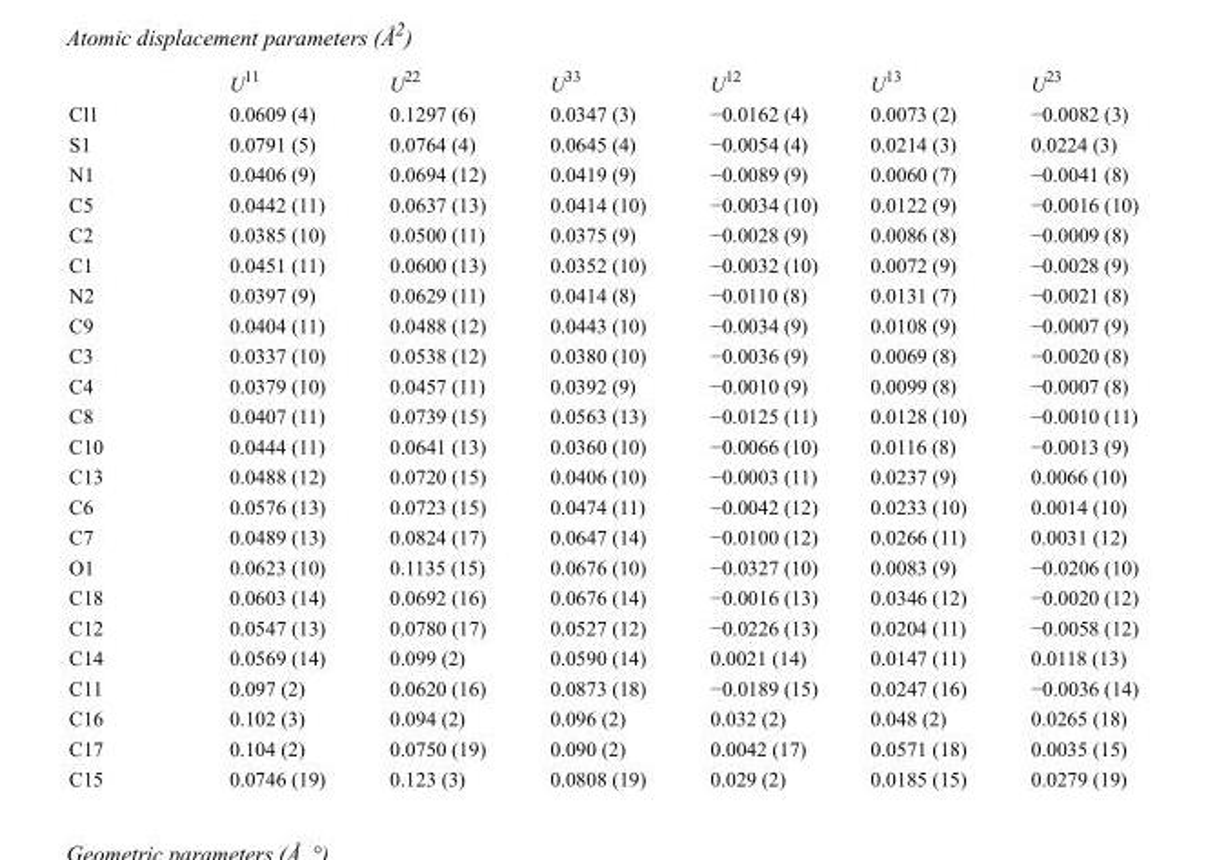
<table><thead><tr><td></td><td>U<sup>11</sup></td><td>U<sup>22</sup></td><td>U<sup>33</sup></td><td>U<sup>12</sup></td><td>U<sup>13</sup></td><td>U<sup>23</sup></td></tr></thead><tbody><tr><td>Cl1</td><td>0.0609 (4)</td><td>0.1297 (6)</td><td>0.0347 (3)</td><td>−0.0162 (4)</td><td>0.0073 (2)</td><td>−0.0082 (3)</td></tr><tr><td>S1</td><td>0.0791 (5)</td><td>0.0764 (4)</td><td>0.0645 (4)</td><td>−0.0054 (4)</td><td>0.0214 (3)</td><td>0.0224 (3)</td></tr><tr><td>N1</td><td>0.0406 (9)</td><td>0.0694 (12)</td><td>0.0419 (9)</td><td>−0.0089 (9)</td><td>0.0060 (7)</td><td>−0.0041 (8)</td></tr><tr><td>C5</td><td>0.0442 (11)</td><td>0.0637 (13)</td><td>0.0414 (10)</td><td>−0.0034 (10)</td><td>0.0122 (9)</td><td>−0.0016 (10)</td></tr><tr><td>C2</td><td>0.0385 (10)</td><td>0.0500 (11)</td><td>0.0375 (9)</td><td>−0.0028 (9)</td><td>0.0086 (8)</td><td>−0.0009 (8)</td></tr><tr><td>C1</td><td>0.0451 (11)</td><td>0.0600 (13)</td><td>0.0352 (10)</td><td>−0.0032 (10)</td><td>0.0072 (9)</td><td>−0.0028 (9)</td></tr><tr><td>N2</td><td>0.0397 (9)</td><td>0.0629 (11)</td><td>0.0414 (8)</td><td>−0.0110 (8)</td><td>0.0131 (7)</td><td>−0.0021 (8)</td></tr><tr><td>C9</td><td>0.0404 (11)</td><td>0.0488 (12)</td><td>0.0443 (10)</td><td>−0.0034 (9)</td><td>0.0108 (9)</td><td>−0.0007 (9)</td></tr><tr><td>C3</td><td>0.0337 (10)</td><td>0.0538 (12)</td><td>0.0380 (10)</td><td>−0.0036 (9)</td><td>0.0069 (8)</td><td>−0.0020 (8)</td></tr><tr><td>C4</td><td>0.0379 (10)</td><td>0.0457 (11)</td><td>0.0392 (9)</td><td>−0.0010 (9)</td><td>0.0099 (8)</td><td>−0.0007 (8)</td></tr><tr><td>C8</td><td>0.0407 (11)</td><td>0.0739 (15)</td><td>0.0563 (13)</td><td>−0.0125 (11)</td><td>0.0128 (10)</td><td>−0.0010 (11)</td></tr><tr><td>C10</td><td>0.0444 (11)</td><td>0.0641 (13)</td><td>0.0360 (10)</td><td>−0.0066 (10)</td><td>0.0116 (8)</td><td>−0.0013 (9)</td></tr><tr><td>C13</td><td>0.0488 (12)</td><td>0.0720 (15)</td><td>0.0406 (10)</td><td>−0.0003 (11)</td><td>0.0237 (9)</td><td>0.0066 (10)</td></tr><tr><td>C6</td><td>0.0576 (13)</td><td>0.0723 (15)</td><td>0.0474 (11)</td><td>−0.0042 (12)</td><td>0.0233 (10)</td><td>0.0014 (10)</td></tr><tr><td>C7</td><td>0.0489 (13)</td><td>0.0824 (17)</td><td>0.0647 (14)</td><td>−0.0100 (12)</td><td>0.0266 (11)</td><td>0.0031 (12)</td></tr><tr><td>O1</td><td>0.0623 (10)</td><td>0.1135 (15)</td><td>0.0676 (10)</td><td>−0.0327 (10)</td><td>0.0083 (9)</td><td>−0.0206 (10)</td></tr><tr><td>C18</td><td>0.0603 (14)</td><td>0.0692 (16)</td><td>0.0676 (14)</td><td>−0.0016 (13)</td><td>0.0346 (12)</td><td>−0.0020 (12)</td></tr><tr><td>C12</td><td>0.0547 (13)</td><td>0.0780 (17)</td><td>0.0527 (12)</td><td>−0.0226 (13)</td><td>0.0204 (11)</td><td>−0.0058 (12)</td></tr><tr><td>C14</td><td>0.0569 (14)</td><td>0.099 (2)</td><td>0.0590 (14)</td><td>0.0021 (14)</td><td>0.0147 (11)</td><td>0.0118 (13)</td></tr><tr><td>C11</td><td>0.097 (2)</td><td>0.0620 (16)</td><td>0.0873 (18)</td><td>−0.0189 (15)</td><td>0.0247 (16)</td><td>−0.0036 (14)</td></tr><tr><td>C16</td><td>0.102 (3)</td><td>0.094 (2)</td><td>0.096 (2)</td><td>0.032 (2)</td><td>0.048 (2)</td><td>0.0265 (18)</td></tr><tr><td>C17</td><td>0.104 (2)</td><td>0.0750 (19)</td><td>0.090 (2)</td><td>0.0042 (17)</td><td>0.0571 (18)</td><td>0.0035 (15)</td></tr><tr><td>C15</td><td>0.0746 (19)</td><td>0.123 (3)</td><td>0.0808 (19)</td><td>0.029 (2)</td><td>0.0185 (15)</td><td>0.0279 (19)</td></tr></tbody></table>